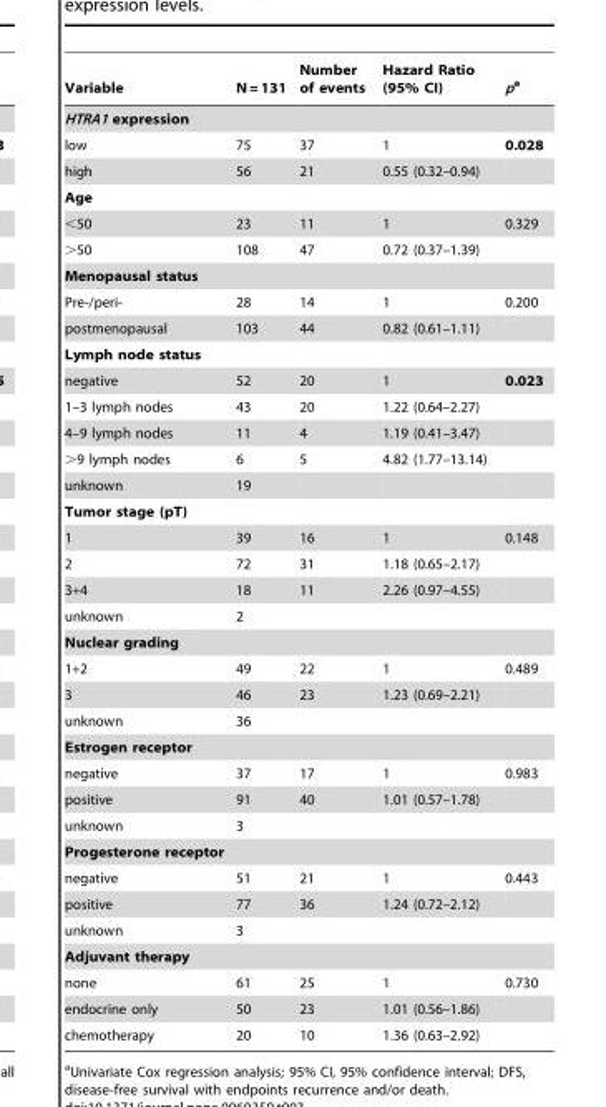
<table><thead><tr><td>Variable</td><td>N = 131</td><td>Number of events</td><td>Hazard Ratio (95% CI)</td><td>pa</td></tr></thead><tbody><tr><td colspan="5">HTRA1 expression</td></tr><tr><td>low</td><td>75</td><td>37</td><td>1</td><td>0.028</td></tr><tr><td>high</td><td>56</td><td>21</td><td>0.55 (0.32–0.94)</td><td></td></tr><tr><td colspan="5">Age</td></tr><tr><td>&lt;50</td><td>23</td><td>11</td><td>1</td><td>0.329</td></tr><tr><td>&gt;50</td><td>108</td><td>47</td><td>0.72 (0.37–1.39)</td><td></td></tr><tr><td colspan="5">Menopausal status</td></tr><tr><td>Pre-/peri-</td><td>28</td><td>14</td><td>1</td><td>0.200</td></tr><tr><td>postmenopausal</td><td>103</td><td>44</td><td>0.82 (0.61–1.11)</td><td></td></tr><tr><td colspan="5">Lymph node status</td></tr><tr><td>negative</td><td>52</td><td>20</td><td>1</td><td>0.023</td></tr><tr><td>1–3 lymph nodes</td><td>43</td><td>20</td><td>1.22 (0.64–2.27)</td><td></td></tr><tr><td>4–9 lymph nodes</td><td>11</td><td>4</td><td>1.19 (0.41–3.47)</td><td></td></tr><tr><td>&gt;9 lymph nodes</td><td>6</td><td>5</td><td>4.82 (1.77–13.14)</td><td></td></tr><tr><td>unknown</td><td>19</td><td></td><td></td><td></td></tr><tr><td colspan="5">Tumor stage (pT)</td></tr><tr><td>1</td><td>39</td><td>16</td><td>1</td><td>0.148</td></tr><tr><td>2</td><td>72</td><td>31</td><td>1.18 (0.65–2.17)</td><td></td></tr><tr><td>3+4</td><td>18</td><td>11</td><td>2.26 (0.97–4.55)</td><td></td></tr><tr><td>unknown</td><td>2</td><td></td><td></td><td></td></tr><tr><td colspan="5">Nuclear grading</td></tr><tr><td>1+2</td><td>49</td><td>22</td><td>1</td><td>0.489</td></tr><tr><td>3</td><td>46</td><td>23</td><td>1.23 (0.69–2.21)</td><td></td></tr><tr><td>unknown</td><td>36</td><td></td><td></td><td></td></tr><tr><td colspan="5">Estrogen receptor</td></tr><tr><td>negative</td><td>37</td><td>17</td><td>1</td><td>0.983</td></tr><tr><td>positive</td><td>91</td><td>40</td><td>1.01 (0.57–1.78)</td><td></td></tr><tr><td>unknown</td><td>3</td><td></td><td></td><td></td></tr><tr><td colspan="5">Progesterone receptor</td></tr><tr><td>negative</td><td>51</td><td>21</td><td>1</td><td>0.443</td></tr><tr><td>positive</td><td>77</td><td>36</td><td>1.24 (0.72–2.12)</td><td></td></tr><tr><td>unknown</td><td>3</td><td></td><td></td><td></td></tr><tr><td colspan="5">Adjuvant therapy</td></tr><tr><td>none</td><td>61</td><td>25</td><td>1</td><td>0.730</td></tr><tr><td>endocrine only</td><td>50</td><td>23</td><td>1.01 (0.56–1.86)</td><td></td></tr><tr><td>chemotherapy</td><td>20</td><td>10</td><td>1.36 (0.63–2.92)</td><td></td></tr></tbody></table>